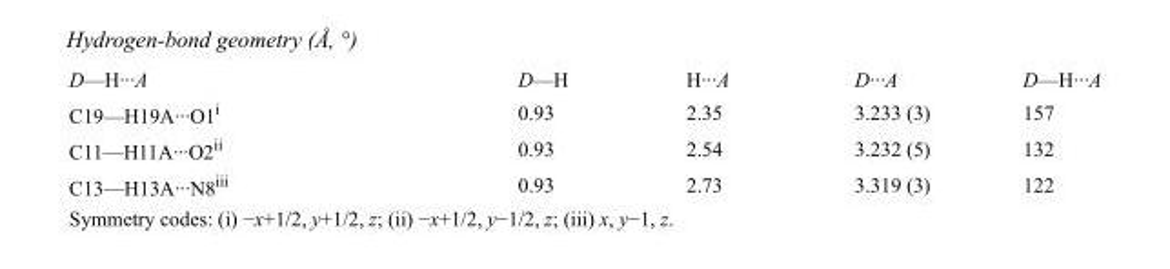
<table><tbody><tr><td>D—H···A</td><td>D—H</td><td>H···A</td><td>D···A</td><td>D—H···A</td></tr><tr><td>C19—H19A···O1<sup>i</sup></td><td>0.93</td><td>2.35</td><td>3.233 (3)</td><td>157</td></tr><tr><td>C11—H11A···O2<sup>ii</sup></td><td>0.93</td><td>2.54</td><td>3.232 (5)</td><td>132</td></tr><tr><td>C13—H13A···N8<sup>iii</sup></td><td>0.93</td><td>2.73</td><td>3.319 (3)</td><td>122</td></tr></tbody></table>